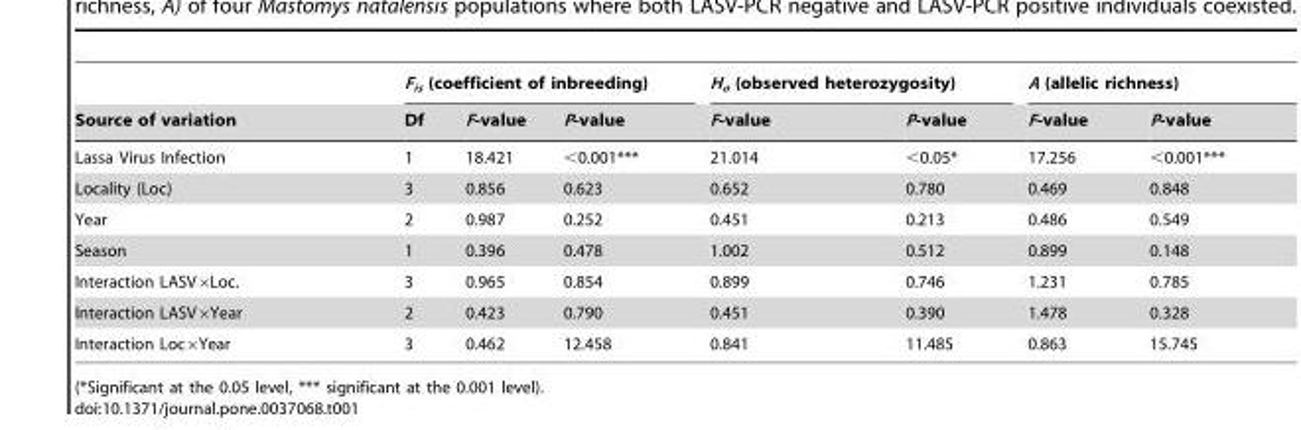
<table><thead><tr><td rowspan="2">Source of variation</td><td colspan="3">F<sub>is</sub> (coefficient of inbreeding)</td><td colspan="2">H<sub>o</sub> (observed heterozygosity)</td><td colspan="2">A (allelic richness)</td></tr><tr><td>Df</td><td>F-value</td><td>P-value</td><td>F-value</td><td>P-value</td><td>F-value</td><td>P-value</td></tr></thead><tbody><tr><td>Lassa Virus Infection</td><td>1</td><td>18.421</td><td>&lt;0.001***</td><td>21.014</td><td>&lt;0.05*</td><td>17.256</td><td>&lt;0.001***</td></tr><tr><td>Locality (Loc)</td><td>3</td><td>0.856</td><td>0.623</td><td>0.652</td><td>0.780</td><td>0.469</td><td>0.848</td></tr><tr><td>Year</td><td>2</td><td>0.987</td><td>0.252</td><td>0.451</td><td>0.213</td><td>0.486</td><td>0.549</td></tr><tr><td>Season</td><td>1</td><td>0.396</td><td>0.478</td><td>1.002</td><td>0.512</td><td>0.899</td><td>0.148</td></tr><tr><td>Interaction LASV×Loc.</td><td>3</td><td>0.965</td><td>0.854</td><td>0.899</td><td>0.746</td><td>1.231</td><td>0.785</td></tr><tr><td>Interaction LASV×Year</td><td>2</td><td>0.423</td><td>0.790</td><td>0.451</td><td>0.390</td><td>1.478</td><td>0.328</td></tr><tr><td>Interaction Loc×Year</td><td>3</td><td>0.462</td><td>12.458</td><td>0.841</td><td>11.485</td><td>0.863</td><td>15.745</td></tr></tbody></table>